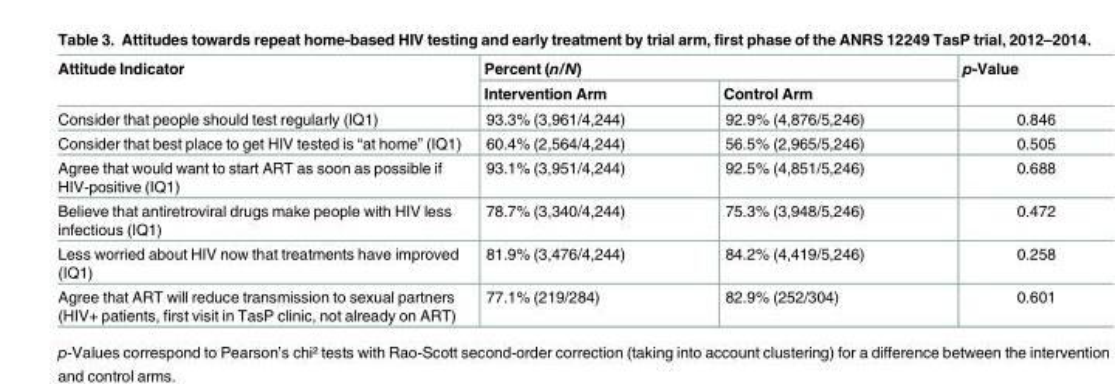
<table><thead><tr><td rowspan="2">Attitude Indicator</td><td colspan="2">Percent (n/N)</td><td rowspan="2">p-Value</td></tr><tr><td>Intervention Arm</td><td>Control Arm</td></tr></thead><tbody><tr><td>Consider that people should test regularly (IQ1)</td><td>93.3% (3,961/4,244)</td><td>92.9% (4,876/5,246)</td><td>0.846</td></tr><tr><td>Consider that best place to get HIV tested is “at home” (IQ1)</td><td>60.4% (2,564/4,244)</td><td>56.5% (2,965/5,246)</td><td>0.505</td></tr><tr><td>Agree that would want to start ART as soon as possible if HIV-positive (IQ1)</td><td>93.1% (3,951/4,244)</td><td>92.5% (4,851/5,246)</td><td>0.688</td></tr><tr><td>Believe that antiretroviral drugs make people with HIV less infectious (IQ1)</td><td>78.7% (3,340/4,244)</td><td>75.3% (3,948/5,246)</td><td>0.472</td></tr><tr><td>Less worried about HIV now that treatments have improved (IQ1)</td><td>81.9% (3,476/4,244)</td><td>84.2% (4,419/5,246)</td><td>0.258</td></tr><tr><td>Agree that ART will reduce transmission to sexual partners (HIV+ patients, first visit in TasP clinic, not already on ART)</td><td>77.1% (219/284)</td><td>82.9% (252/304)</td><td>0.601</td></tr></tbody></table>